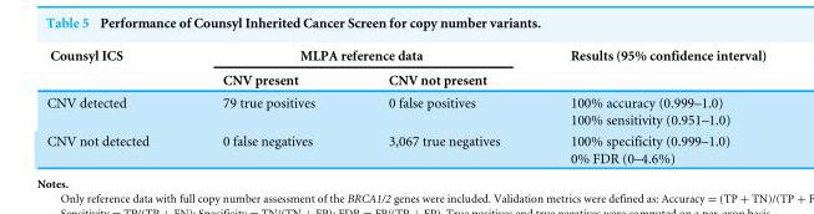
<table><thead><tr><td rowspan="2">Counsyl ICS</td><td colspan="2">MLPA reference data</td><td rowspan="2">Results (95% confidence interval)</td></tr><tr><td>CNV present</td><td>CNV not present</td></tr></thead><tbody><tr><td>CNV detected</td><td>79 true positives</td><td>0 false positives</td><td>100% accuracy (0.999–1.0) 100% sensitivity (0.951–1.0)</td></tr><tr><td>CNV not detected</td><td>0 false negatives</td><td>3,067 true negatives</td><td>100% specificity (0.999–1.0) 0% FDR (0–4.6%)</td></tr></tbody></table>